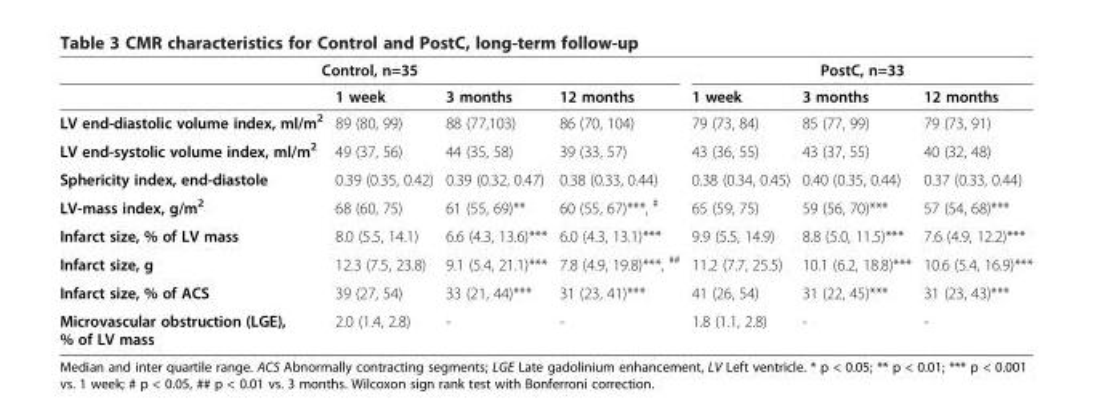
<table><thead><tr><td colspan="4">Control, n=35</td><td colspan="3">PostC, n=33</td></tr><tr><td></td><td>1 week</td><td>3 months</td><td>12 months</td><td>1 week</td><td>3 months</td><td>12 months</td></tr></thead><tbody><tr><td>LV end-diastolic volume index, ml/m<sup>2</sup></td><td>89 (80, 99)</td><td>88 (77,103)</td><td>86 (70, 104)</td><td>79 (73, 84)</td><td>85 (77, 99)</td><td>79 (73, 91)</td></tr><tr><td>LV end-systolic volume index, ml/m<sup>2</sup></td><td>49 (37, 56)</td><td>44 (35, 58)</td><td>39 (33, 57)</td><td>43 (36, 55)</td><td>43 (37, 55)</td><td>40 (32, 48)</td></tr><tr><td>Sphericity index, end-diastole</td><td>0.39 (0.35, 0.42)</td><td>0.39 (0.32, 0.47)</td><td>0.38 (0.33, 0.44)</td><td>0.38 (0.34, 0.45)</td><td>0.40 (0.35, 0.44)</td><td>0.37 (0.33, 0.44)</td></tr><tr><td>LV-mass index, g/m<sup>2</sup></td><td>68 (60, 75)</td><td>61 (55, 69)**</td><td>60 (55, 67)***, <sup>#</sup></td><td>65 (59, 75)</td><td>59 (56, 70)***</td><td>57 (54, 68)***</td></tr><tr><td>Infarct size, % of LV mass</td><td>8.0 (5.5, 14.1)</td><td>6.6 (4.3, 13.6)***</td><td>6.0 (4.3, 13.1)***</td><td>9.9 (5.5, 14.9)</td><td>8.8 (5.0, 11.5)***</td><td>7.6 (4.9, 12.2)***</td></tr><tr><td>Infarct size, g</td><td>12.3 (7.5, 23.8)</td><td>9.1 (5.4, 21.1)***</td><td>7.8 (4.9, 19.8)***, <sup>##</sup></td><td>11.2 (7.7, 25.5)</td><td>10.1 (6.2, 18.8)***</td><td>10.6 (5.4, 16.9)***</td></tr><tr><td>Infarct size, % of ACS</td><td>39 (27, 54)</td><td>33 (21, 44)***</td><td>31 (23, 41)***</td><td>41 (26, 54)</td><td>31 (22, 45)***</td><td>31 (23, 43)***</td></tr><tr><td>Microvascular obstruction (LGE), % of LV mass</td><td>2.0 (1.4, 2.8)</td><td>-</td><td>-</td><td>1.8 (1.1, 2.8)</td><td>-</td><td>-</td></tr></tbody></table>